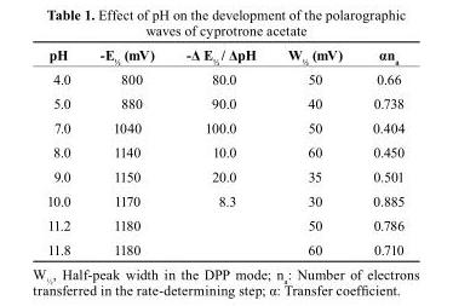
<table><thead><tr><td>pH</td><td>-E<sub>½</sub> (mV)</td><td>-Δ E<sub>½</sub> / ΔpH</td><td>W<sub>½</sub> (mV)</td><td>αn<sub>a</sub></td></tr></thead><tbody><tr><td>4.0</td><td>800</td><td>80.0</td><td>50</td><td>0.66</td></tr><tr><td>5.0</td><td>880</td><td>90.0</td><td>40</td><td>0.738</td></tr><tr><td>7.0</td><td>1040</td><td>100.0</td><td>50</td><td>0.404</td></tr><tr><td>8.0</td><td>1140</td><td>10.0</td><td>60</td><td>0.450</td></tr><tr><td>9.0</td><td>1150</td><td>20.0</td><td>35</td><td>0.501</td></tr><tr><td>10.0</td><td>1170</td><td>8.3</td><td>30</td><td>0.885</td></tr><tr><td>11.2</td><td>1180</td><td></td><td>50</td><td>0.786</td></tr><tr><td>11.8</td><td>1180</td><td></td><td>60</td><td>0.710</td></tr></tbody></table>